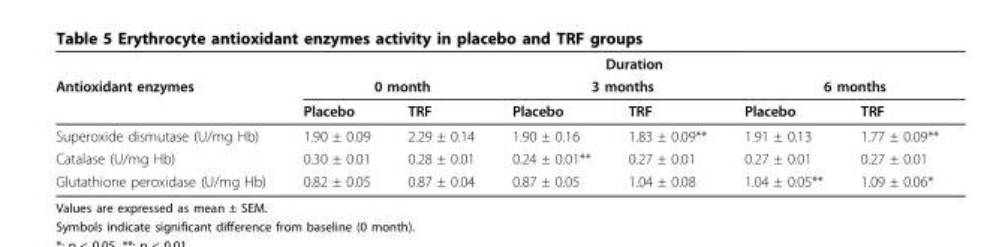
<table><thead><tr><td rowspan="3">Antioxidant enzymes</td><td colspan="6">Duration</td></tr><tr><td colspan="2">0 month</td><td colspan="2">3 months</td><td colspan="2">6 months</td></tr><tr><td>Placebo</td><td>TRF</td><td>Placebo</td><td>TRF</td><td>Placebo</td><td>TRF</td></tr></thead><tbody><tr><td>Superoxide dismutase (U/mg Hb)</td><td>1.90 ± 0.09</td><td>2.29 ± 0.14</td><td>1.90 ± 0.16</td><td>1.83 ± 0.09**</td><td>1.91 ± 0.13</td><td>1.77 ± 0.09**</td></tr><tr><td>Catalase (U/mg Hb)</td><td>0.30 ± 0.01</td><td>0.28 ± 0.01</td><td>0.24 ± 0.01**</td><td>0.27 ± 0.01</td><td>0.27 ± 0.01</td><td>0.27 ± 0.01</td></tr><tr><td>Glutathione peroxidase (U/mg Hb)</td><td>0.82 ± 0.05</td><td>0.87 ± 0.04</td><td>0.87 ± 0.05</td><td>1.04 ± 0.08</td><td>1.04 ± 0.05**</td><td>1.09 ± 0.06*</td></tr></tbody></table>